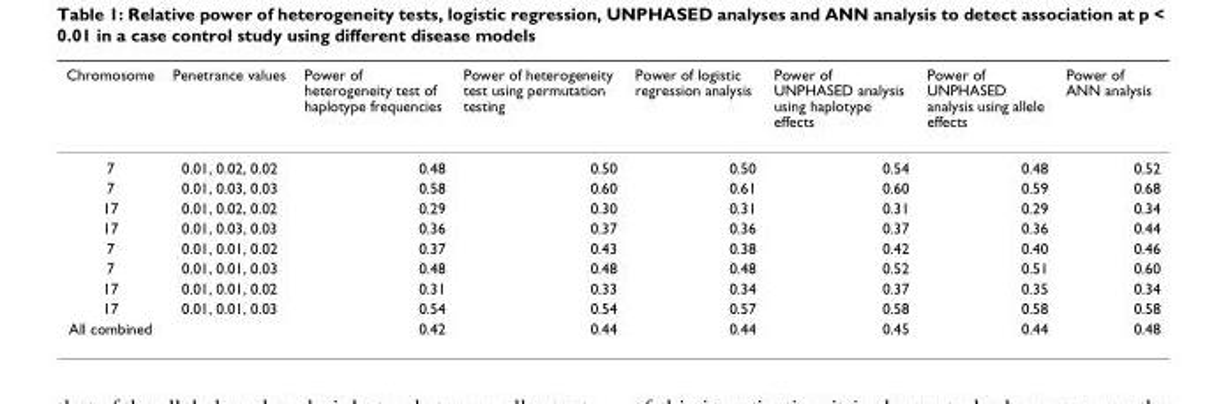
<table><thead><tr><td>Chromosome</td><td>Penetrance values</td><td>Power of heterogeneity test of haplotype frequencies</td><td>Power of heterogeneity test using permutation testing</td><td>Power of logistic regression analysis</td><td>Power of UNPHASED analysis using haplotype effects</td><td>Power of UNPHASED analysis using allele effects</td><td>Power of ANN analysis</td></tr></thead><tbody><tr><td>7</td><td>0.01, 0.02, 0.02</td><td>0.48</td><td>0.50</td><td>0.50</td><td>0.54</td><td>0.48</td><td>0.52</td></tr><tr><td>7</td><td>0.01, 0.03, 0.03</td><td>0.58</td><td>0.60</td><td>0.61</td><td>0.60</td><td>0.59</td><td>0.68</td></tr><tr><td>17</td><td>0.01, 0.02, 0.02</td><td>0.29</td><td>0.30</td><td>0.31</td><td>0.31</td><td>0.29</td><td>0.34</td></tr><tr><td>17</td><td>0.01, 0.03, 0.03</td><td>0.36</td><td>0.37</td><td>0.36</td><td>0.37</td><td>0.36</td><td>0.44</td></tr><tr><td>7</td><td>0.01, 0.01, 0.02</td><td>0.37</td><td>0.43</td><td>0.38</td><td>0.42</td><td>0.40</td><td>0.46</td></tr><tr><td>7</td><td>0.01, 0.01, 0.03</td><td>0.48</td><td>0.48</td><td>0.48</td><td>0.52</td><td>0.51</td><td>0.60</td></tr><tr><td>17</td><td>0.01, 0.01, 0.02</td><td>0.31</td><td>0.33</td><td>0.34</td><td>0.37</td><td>0.35</td><td>0.34</td></tr><tr><td>17</td><td>0.01, 0.01, 0.03</td><td>0.54</td><td>0.54</td><td>0.57</td><td>0.58</td><td>0.58</td><td>0.58</td></tr><tr><td>All combined</td><td></td><td>0.42</td><td>0.44</td><td>0.44</td><td>0.45</td><td>0.44</td><td>0.48</td></tr></tbody></table>